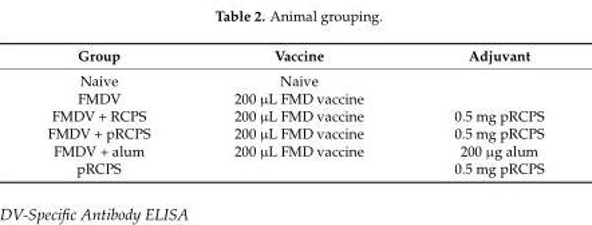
<table><thead><tr><td>Group</td><td>Vaccine</td><td>Adjuvant</td></tr></thead><tbody><tr><td>Naive</td><td>Naive</td><td></td></tr><tr><td>FMDV</td><td>200 µL FMD vaccine</td><td></td></tr><tr><td>FMDV + RCPS</td><td>200 µL FMD vaccine</td><td>0.5 mg pRCPS</td></tr><tr><td>FMDV + pRCPS</td><td>200 µL FMD vaccine</td><td>0.5 mg pRCPS</td></tr><tr><td>FMDV + alum</td><td>200 µL FMD vaccine</td><td>200 µg alum</td></tr><tr><td>pRCPS</td><td></td><td>0.5 mg pRCPS</td></tr></tbody></table>